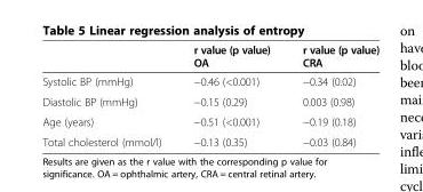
<table><thead><tr><td></td><td>r value (p value) OA</td><td>r value (p value) CRA</td></tr></thead><tbody><tr><td>Systolic BP (mmHg)</td><td>−0.46 (&lt;0.001)</td><td>−0.34 (0.02)</td></tr><tr><td>Diastolic BP (mmHg)</td><td>−0.15 (0.29)</td><td>0.003 (0.98)</td></tr><tr><td>Age (years)</td><td>−0.51 (&lt;0.001)</td><td>−0.19 (0.18)</td></tr><tr><td>Total cholesterol (mmol/l)</td><td>−0.13 (0.35)</td><td>−0.03 (0.84)</td></tr></tbody></table>